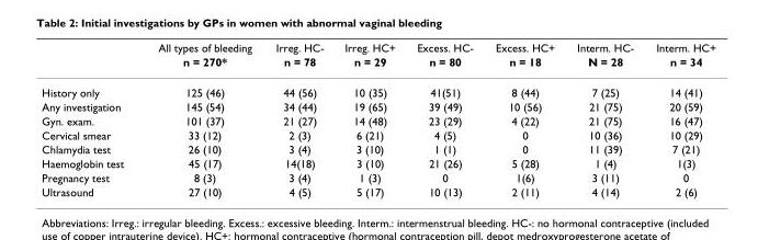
<table><thead><tr><td rowspan="2"></td><td rowspan="2">All types of bleeding n = 270*</td><td rowspan="2">Irreg. HC- n = 78</td><td rowspan="2">Irreg. HC+ n = 29</td><td rowspan="2">Excess. HC- n = 80</td><td rowspan="2">Excess. HC+ n = 18</td><td rowspan="2">Interm. HC- N = 28</td><td rowspan="2">Interm. HC+ n = 34</td></tr><tr></tr></thead><tbody><tr><td>History only</td><td>125 (46)</td><td>44 (56)</td><td>10 (35)</td><td>41(51)</td><td>8 (44)</td><td>7 (25)</td><td>14 (41)</td></tr><tr><td>Any investigation</td><td>145 (54)</td><td>34 (44)</td><td>19 (65)</td><td>39 (49)</td><td>10 (56)</td><td>21 (75)</td><td>20 (59)</td></tr><tr><td>Gyn. exam.</td><td>101 (37)</td><td>21 (27)</td><td>14 (48)</td><td>23 (29)</td><td>4 (22)</td><td>21 (75)</td><td>16 (47)</td></tr><tr><td>Cervical smear</td><td>33 (12)</td><td>2 (3)</td><td>6 (21)</td><td>4 (5)</td><td>0</td><td>10 (36)</td><td>10 (29)</td></tr><tr><td>Chlamydia test</td><td>26 (10)</td><td>3 (4)</td><td>3 (10)</td><td>1 (1)</td><td>0</td><td>11 (39)</td><td>7 (21)</td></tr><tr><td>Haemoglobin test</td><td>45 (17)</td><td>14(18)</td><td>3 (10)</td><td>21 (26)</td><td>5 (28)</td><td>1 (4)</td><td>1(3)</td></tr><tr><td>Pregnancy test</td><td>8 (3)</td><td>3 (4)</td><td>1 (3)</td><td>0</td><td>1(6)</td><td>3 (11)</td><td>0</td></tr><tr><td>Ultrasound</td><td>27 (10)</td><td>4 (5)</td><td>5 (17)</td><td>10 (13)</td><td>2 (11)</td><td>4 (14)</td><td>2 (6)</td></tr></tbody></table>